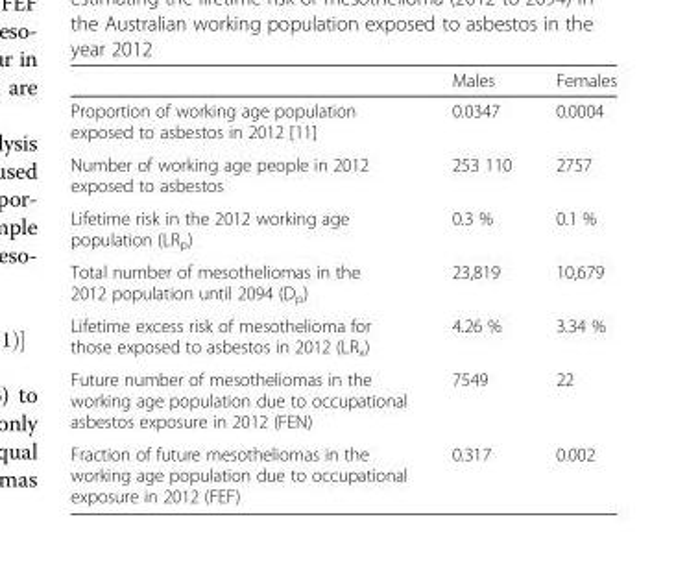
<table><thead><tr><td></td><td>Males</td><td>Females</td></tr></thead><tbody><tr><td>Proportion of working age population exposed to asbestos in 2012 [11]</td><td>0.0347</td><td>0.0004</td></tr><tr><td>Number of working age people in 2012 exposed to asbestos</td><td>253 110</td><td>2757</td></tr><tr><td>Lifetime risk in the 2012 working age population (LR<sub>p</sub>)</td><td>0.3 %</td><td>0.1 %</td></tr><tr><td>Total number of mesotheliomas in the 2012 population until 2094 (D<sub>p</sub>)</td><td>23,819</td><td>10,679</td></tr><tr><td>Lifetime excess risk of mesothelioma for those exposed to asbestos in 2012 (LR<sub>x</sub>)</td><td>4.26 %</td><td>3.34 %</td></tr><tr><td>Future number of mesotheliomas in the working age population due to occupational asbestos exposure in 2012 (FEN)</td><td>7549</td><td>22</td></tr><tr><td>Fraction of future mesotheliomas in the working age population due to occupational exposure in 2012 (FEF)</td><td>0.317</td><td>0.002</td></tr></tbody></table>